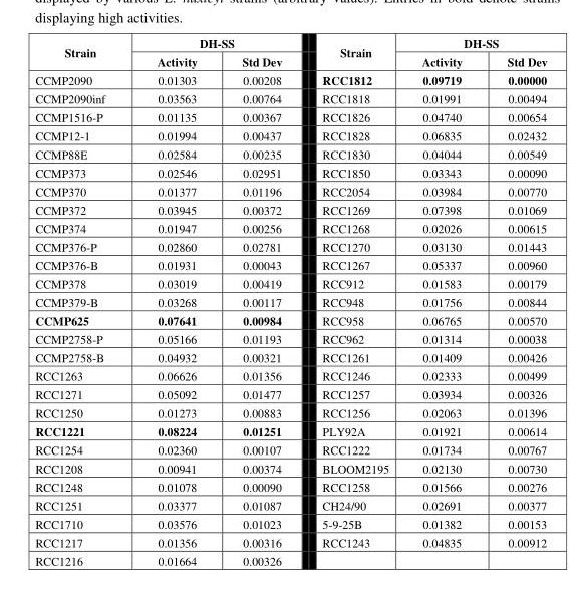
<table><thead><tr><td rowspan="2">Strain</td><td colspan="2">DH-SS</td><td rowspan="2">Strain</td><td colspan="2">DH-SS</td></tr><tr><td>Activity</td><td>Std Dev</td><td>Activity</td><td>Std Dev</td></tr></thead><tbody><tr><td>CCMP2090</td><td>0.01303</td><td>0.00208</td><td>RCC1812</td><td>0.09719</td><td>0.00000</td></tr><tr><td>CCMP2090inf</td><td>0.03563</td><td>0.00764</td><td>RCC1818</td><td>0.01991</td><td>0.00494</td></tr><tr><td>CCMP1516-P</td><td>0.01135</td><td>0.00367</td><td>RCC1826</td><td>0.04740</td><td>0.00654</td></tr><tr><td>CCMP12-1</td><td>0.01994</td><td>0.00437</td><td>RCC1828</td><td>0.06835</td><td>0.02432</td></tr><tr><td>CCMP88E</td><td>0.02584</td><td>0.00235</td><td>RCC1830</td><td>0.04044</td><td>0.00549</td></tr><tr><td>CCMP373</td><td>0.02546</td><td>0.02951</td><td>RCC1850</td><td>0.03343</td><td>0.00090</td></tr><tr><td>CCMP370</td><td>0.01377</td><td>0.01196</td><td>RCC2054</td><td>0.03984</td><td>0.00770</td></tr><tr><td>CCMP372</td><td>0.03945</td><td>0.00372</td><td>RCC1269</td><td>0.07398</td><td>0.01069</td></tr><tr><td>CCMP374</td><td>0.01947</td><td>0.00256</td><td>RCC1268</td><td>0.02026</td><td>0.00615</td></tr><tr><td>CCMP376-P</td><td>0.02860</td><td>0.02781</td><td>RCC1270</td><td>0.03130</td><td>0.01443</td></tr><tr><td>CCMP376-B</td><td>0.01931</td><td>0.00043</td><td>RCC1267</td><td>0.05337</td><td>0.00960</td></tr><tr><td>CCMP378</td><td>0.03019</td><td>0.00419</td><td>RCC912</td><td>0.01583</td><td>0.00179</td></tr><tr><td>CCMP379-B</td><td>0.03268</td><td>0.00117</td><td>RCC948</td><td>0.01756</td><td>0.00844</td></tr><tr><td>CCMP625</td><td>0.07641</td><td>0.00984</td><td>RCC958</td><td>0.06765</td><td>0.00570</td></tr><tr><td>CCMP2758-P</td><td>0.05166</td><td>0.01193</td><td>RCC962</td><td>0.01314</td><td>0.00038</td></tr><tr><td>CCMP2758-B</td><td>0.04932</td><td>0.00321</td><td>RCC1261</td><td>0.01409</td><td>0.00426</td></tr><tr><td>RCC1263</td><td>0.06626</td><td>0.01356</td><td>RCC1246</td><td>0.02333</td><td>0.00499</td></tr><tr><td>RCC1271</td><td>0.05092</td><td>0.01477</td><td>RCC1257</td><td>0.03934</td><td>0.00326</td></tr><tr><td>RCC1250</td><td>0.01273</td><td>0.00883</td><td>RCC1256</td><td>0.02063</td><td>0.01396</td></tr><tr><td>RCC1221</td><td>0.08224</td><td>0.01251</td><td>PLY92A</td><td>0.01921</td><td>0.00614</td></tr><tr><td>RCC1254</td><td>0.02360</td><td>0.00107</td><td>RCC1222</td><td>0.01734</td><td>0.00767</td></tr><tr><td>RCC1208</td><td>0.00941</td><td>0.00374</td><td>BLOOM2195</td><td>0.02130</td><td>0.00730</td></tr><tr><td>RCC1248</td><td>0.01078</td><td>0.00090</td><td>RCC1258</td><td>0.01566</td><td>0.00276</td></tr><tr><td>RCC1251</td><td>0.03377</td><td>0.01087</td><td>CH24/90</td><td>0.02691</td><td>0.00377</td></tr><tr><td>RCC1710</td><td>0.03576</td><td>0.01023</td><td>5-9-25B</td><td>0.01382</td><td>0.00153</td></tr><tr><td>RCC1217</td><td>0.01356</td><td>0.00316</td><td>RCC1243</td><td>0.04835</td><td>0.00912</td></tr><tr><td>RCC1216</td><td>0.01664</td><td>0.00326</td><td></td><td></td><td></td></tr></tbody></table>